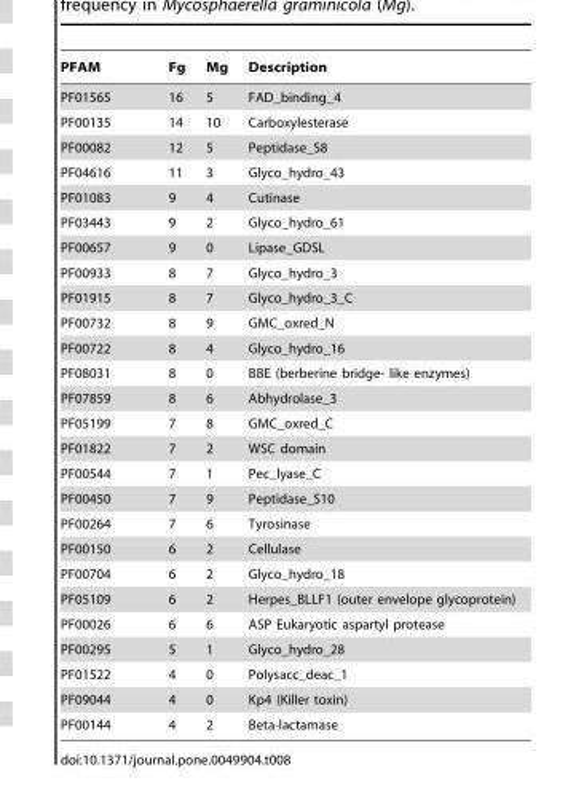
<table><thead><tr><td>PFAM</td><td>Fg</td><td>Mg</td><td>Description</td></tr></thead><tbody><tr><td>PF01565</td><td>16</td><td>5</td><td>FAD_binding_4</td></tr><tr><td>PF00135</td><td>14</td><td>10</td><td>Carboxylesterase</td></tr><tr><td>PF00082</td><td>12</td><td>5</td><td>Peptidase_S8</td></tr><tr><td>PF04616</td><td>11</td><td>3</td><td>Glyco_hydro_43</td></tr><tr><td>PF01083</td><td>9</td><td>4</td><td>Cutinase</td></tr><tr><td>PF03443</td><td>9</td><td>2</td><td>Glyco_hydro_61</td></tr><tr><td>PF00657</td><td>9</td><td>0</td><td>Lipase_GDSL</td></tr><tr><td>PF00933</td><td>8</td><td>7</td><td>Glyco_hydro_3</td></tr><tr><td>PF01915</td><td>8</td><td>7</td><td>Glyco_hydro_3_C</td></tr><tr><td>PF00732</td><td>8</td><td>9</td><td>GMC_oxred_N</td></tr><tr><td>PF00722</td><td>8</td><td>4</td><td>Glyco_hydro_16</td></tr><tr><td>PF08031</td><td>8</td><td>0</td><td>BBE (berberine bridge- like enzymes)</td></tr><tr><td>PF07859</td><td>8</td><td>6</td><td>Abhydrolase_3</td></tr><tr><td>PF05199</td><td>7</td><td>8</td><td>GMC_oxred_C</td></tr><tr><td>PF01822</td><td>7</td><td>2</td><td>WSC domain</td></tr><tr><td>PF00544</td><td>7</td><td>1</td><td>Pec_lyase_C</td></tr><tr><td>PF00450</td><td>7</td><td>9</td><td>Peptidase_S10</td></tr><tr><td>PF00264</td><td>7</td><td>6</td><td>Tyrosinase</td></tr><tr><td>PF00150</td><td>6</td><td>2</td><td>Cellulase</td></tr><tr><td>PF00704</td><td>6</td><td>2</td><td>Glyco_hydro_18</td></tr><tr><td>PF05109</td><td>6</td><td>2</td><td>Herpes_BLLF1 (outer envelope glycoprotein)</td></tr><tr><td>PF00026</td><td>6</td><td>6</td><td>ASP Eukaryotic aspartyl protease</td></tr><tr><td>PF00295</td><td>5</td><td>1</td><td>Glyco_hydro_28</td></tr><tr><td>PF01522</td><td>4</td><td>0</td><td>Polysacc_deac_1</td></tr><tr><td>PF09044</td><td>4</td><td>0</td><td>Kp4 (Killer toxin)</td></tr><tr><td>PF00144</td><td>4</td><td>2</td><td>Beta-lactamase</td></tr></tbody></table>